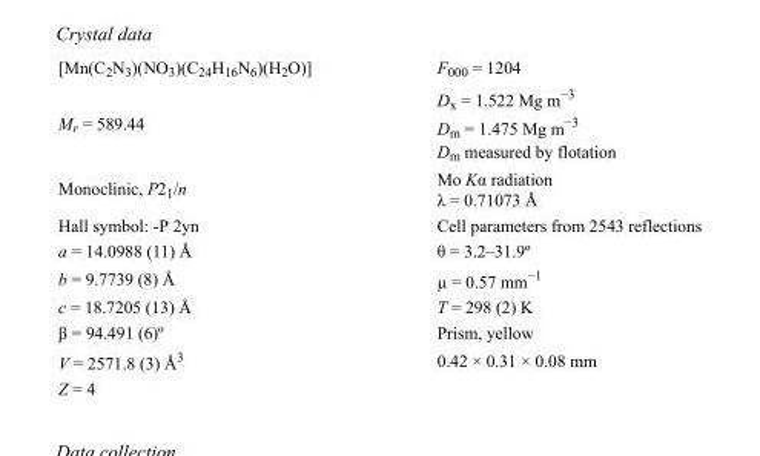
<table><tbody><tr><td>[Mn(C<sub>2</sub>N<sub>3</sub>)(NO<sub>3</sub>)(C<sub>24</sub>H<sub>16</sub>N<sub>6</sub>)(H<sub>2</sub>O)]</td><td>F000 = 1204</td></tr><tr><td>M<sub>r</sub> = 589.44</td><td>D<sub>x</sub> = 1.522 Mg m<sup>−3</sup> D<sub>m</sub> = 1.475 Mg m<sup>−3</sup> D<sub>m</sub> measured by flotation</td></tr><tr><td>Monoclinic, P2<sub>1</sub>/n</td><td>Mo Kα radiation λ = 0.71073 Å</td></tr><tr><td>Hall symbol: -P 2yn</td><td>Cell parameters from 2543 reflections</td></tr><tr><td>a = 14.0988 (11) Å</td><td>θ = 3.2–31.9º</td></tr><tr><td>b = 9.7739 (8) Å</td><td>µ = 0.57 mm<sup>−1</sup></td></tr><tr><td>c = 18.7205 (13) Å</td><td>T = 298 (2) K</td></tr><tr><td>β = 94.491 (6)º</td><td>Prism, yellow</td></tr><tr><td>V = 2571.8 (3) Å<sup>3</sup></td><td>0.42 × 0.31 × 0.08 mm</td></tr><tr><td>Z = 4</td><td></td></tr></tbody></table>